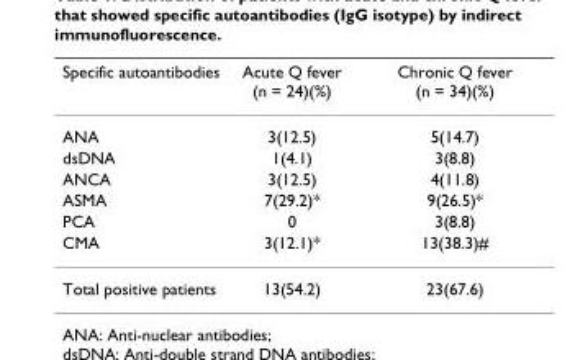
<table><thead><tr><td>Specific autoantibodies</td><td>Acute Q fever (n = 24)(%)</td><td>Chronic Q fever (n = 34)(%)</td></tr></thead><tbody><tr><td>ANA</td><td>3(12.5)</td><td>5(14.7)</td></tr><tr><td>dsDNA</td><td>1(4.1)</td><td>3(8.8)</td></tr><tr><td>ANCA</td><td>3(12.5)</td><td>4(11.8)</td></tr><tr><td>ASMA</td><td>7(29.2)*</td><td>9(26.5)*</td></tr><tr><td>PCA</td><td>0</td><td>3(8.8)</td></tr><tr><td>CMA</td><td>3(12.1)*</td><td>13(38.3)#</td></tr><tr><td>Total positive patients</td><td>13(54.2)</td><td>23(67.6)</td></tr></tbody></table>